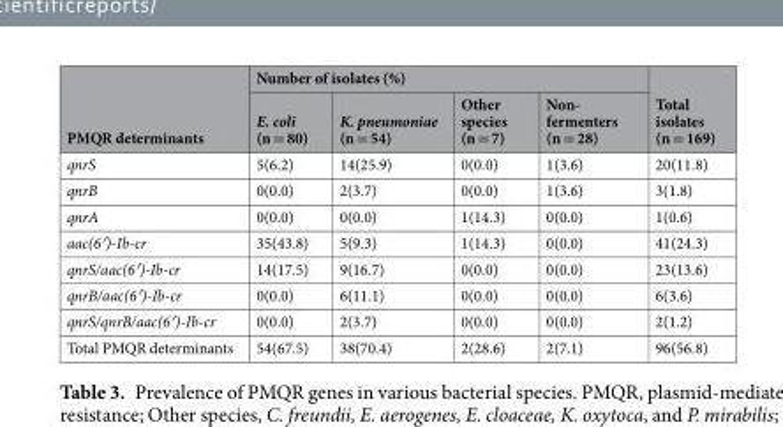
<table><thead><tr><td rowspan="2">PMQR determinants</td><td colspan="4">Number of isolates (%)</td><td rowspan="2">Total isolates (n = 169)</td></tr><tr><td>E. coli (n = 80)</td><td>K. pneumoniae (n = 54)</td><td>Other species (n = 7)</td><td>Non- fermenters (n = 28)</td></tr></thead><tbody><tr><td>qnrS</td><td>5(6.2)</td><td>14(25.9)</td><td>0(0.0)</td><td>1(3.6)</td><td>20(11.8)</td></tr><tr><td>qnrB</td><td>0(0.0)</td><td>2(3.7)</td><td>0(0.0)</td><td>1(3.6)</td><td>3(1.8)</td></tr><tr><td>qnrA</td><td>0(0.0)</td><td>0(0.0)</td><td>1(14.3)</td><td>0(0.0)</td><td>1(0.6)</td></tr><tr><td>aac(6′)-Ib-cr</td><td>35(43.8)</td><td>5(9.3)</td><td>1(14.3)</td><td>0(0.0)</td><td>41(24.3)</td></tr><tr><td>qnrS/aac(6′)-Ib-cr</td><td>14(17.5)</td><td>9(16.7)</td><td>0(0.0)</td><td>0(0.0)</td><td>23(13.6)</td></tr><tr><td>qnrB/aac(6′)-Ib-cr</td><td>0(0.0)</td><td>6(11.1)</td><td>0(0.0)</td><td>0(0.0)</td><td>6(3.6)</td></tr><tr><td>qnrS/qnrB/aac(6′)-Ib-cr</td><td>0(0.0)</td><td>2(3.7)</td><td>0(0.0)</td><td>0(0.0)</td><td>2(1.2)</td></tr><tr><td>Total PMQR determinants</td><td>54(67.5)</td><td>38(70.4)</td><td>2(28.6)</td><td>2(7.1)</td><td>96(56.8)</td></tr></tbody></table>